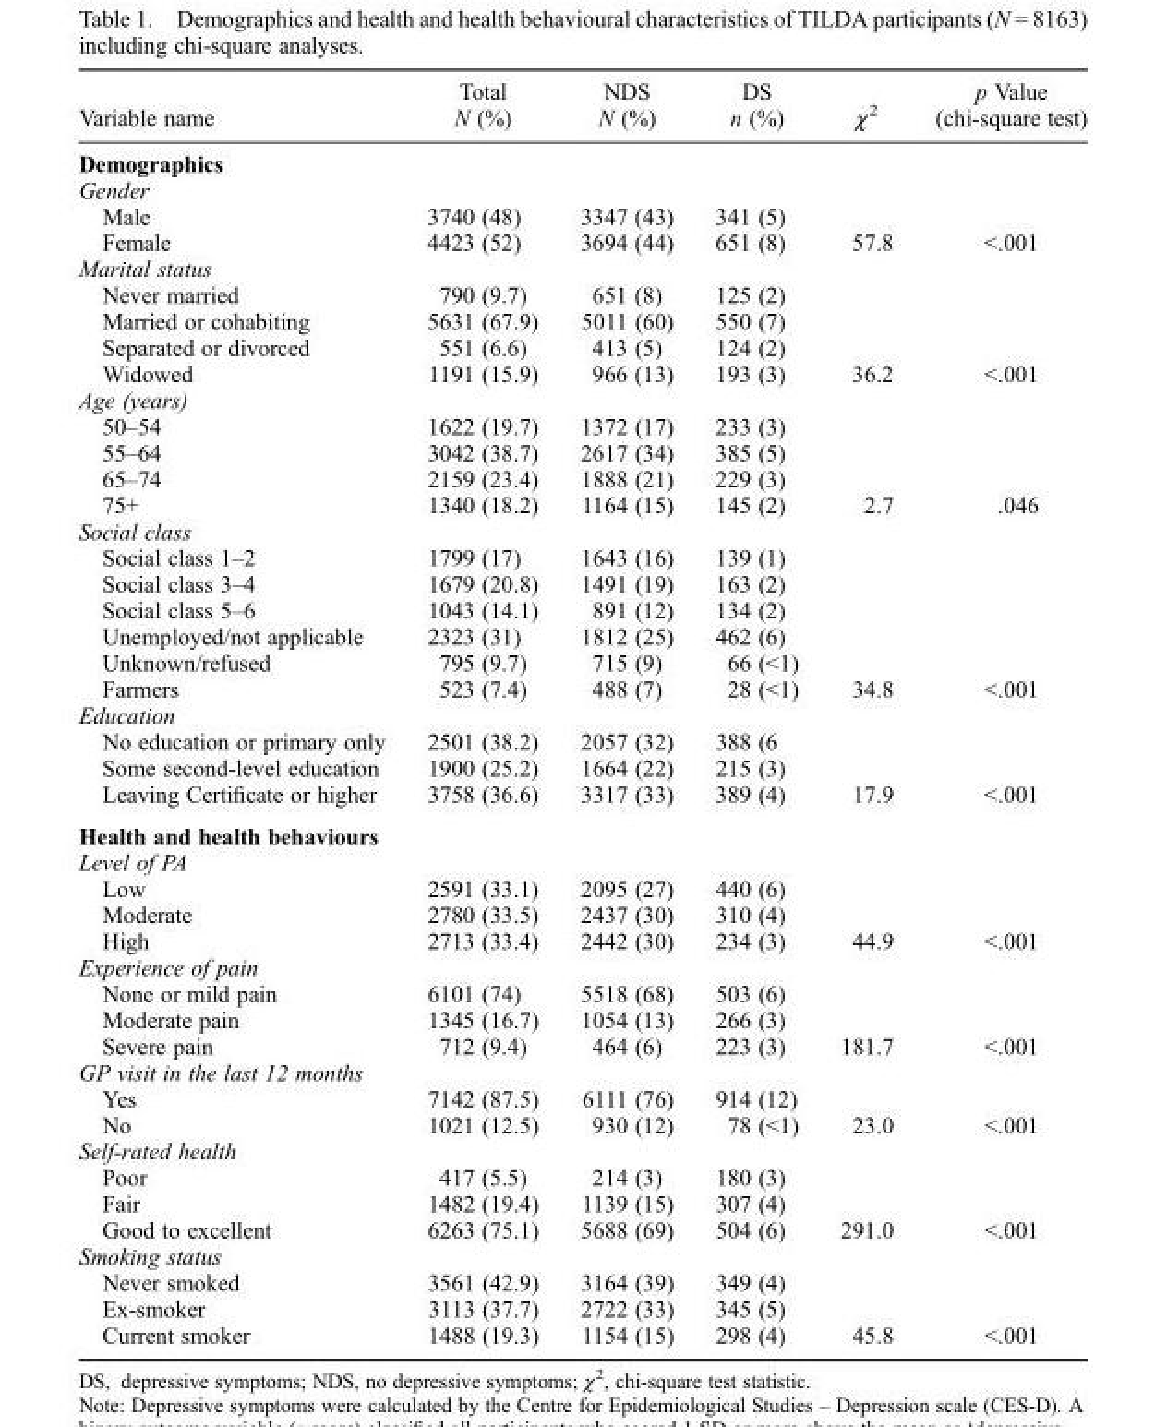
<table><thead><tr><td rowspan="2">Variable name</td><td rowspan="2">Total N (%)</td><td rowspan="2">NDS N (%)</td><td rowspan="2">DS n (%)</td><td rowspan="2">χ<sup>2</sup></td><td rowspan="2">p Value (chi-square test)</td></tr><tr></tr></thead><tbody><tr><td colspan="6">Demographics</td></tr><tr><td colspan="6">Gender</td></tr><tr><td>Male</td><td>3740 (48)</td><td>3347 (43)</td><td>341 (5)</td><td></td><td></td></tr><tr><td>Female</td><td>4423 (52)</td><td>3694 (44)</td><td>651 (8)</td><td>57.8</td><td>&lt;.001</td></tr><tr><td colspan="6">Marital status</td></tr><tr><td>Never married</td><td>790 (9.7)</td><td>651 (8)</td><td>125 (2)</td><td></td><td></td></tr><tr><td>Married or cohabiting</td><td>5631 (67.9)</td><td>5011 (60)</td><td>550 (7)</td><td></td><td></td></tr><tr><td>Separated or divorced</td><td>551 (6.6)</td><td>413 (5)</td><td>124 (2)</td><td></td><td></td></tr><tr><td>Widowed</td><td>1191 (15.9)</td><td>966 (13)</td><td>193 (3)</td><td>36.2</td><td>&lt;.001</td></tr><tr><td colspan="6">Age (years)</td></tr><tr><td>50–54</td><td>1622 (19.7)</td><td>1372 (17)</td><td>233 (3)</td><td></td><td></td></tr><tr><td>55–64</td><td>3042 (38.7)</td><td>2617 (34)</td><td>385 (5)</td><td></td><td></td></tr><tr><td>65–74</td><td>2159 (23.4)</td><td>1888 (21)</td><td>229 (3)</td><td></td><td></td></tr><tr><td>75+</td><td>1340 (18.2)</td><td>1164 (15)</td><td>145 (2)</td><td>2.7</td><td>.046</td></tr><tr><td colspan="6">Social class</td></tr><tr><td>Social class 1–2</td><td>1799 (17)</td><td>1643 (16)</td><td>139 (1)</td><td></td><td></td></tr><tr><td>Social class 3–4</td><td>1679 (20.8)</td><td>1491 (19)</td><td>163 (2)</td><td></td><td></td></tr><tr><td>Social class 5–6</td><td>1043 (14.1)</td><td>891 (12)</td><td>134 (2)</td><td></td><td></td></tr><tr><td>Unemployed/not applicable</td><td>2323 (31)</td><td>1812 (25)</td><td>462 (6)</td><td></td><td></td></tr><tr><td>Unknown/refused</td><td>795 (9.7)</td><td>715 (9)</td><td>66 (&lt;1)</td><td></td><td></td></tr><tr><td>Farmers</td><td>523 (7.4)</td><td>488 (7)</td><td>28 (&lt;1)</td><td>34.8</td><td>&lt;.001</td></tr><tr><td colspan="6">Education</td></tr><tr><td>No education or primary only</td><td>2501 (38.2)</td><td>2057 (32)</td><td>388 (6</td><td></td><td></td></tr><tr><td>Some second-level education</td><td>1900 (25.2)</td><td>1664 (22)</td><td>215 (3)</td><td></td><td></td></tr><tr><td>Leaving Certificate or higher</td><td>3758 (36.6)</td><td>3317 (33)</td><td>389 (4)</td><td>17.9</td><td>&lt;.001</td></tr><tr><td colspan="6">Health and health behaviours</td></tr><tr><td colspan="6">Level of PA</td></tr><tr><td>Low</td><td>2591 (33.1)</td><td>2095 (27)</td><td>440 (6)</td><td></td><td></td></tr><tr><td>Moderate</td><td>2780 (33.5)</td><td>2437 (30)</td><td>310 (4)</td><td></td><td></td></tr><tr><td>High</td><td>2713 (33.4)</td><td>2442 (30)</td><td>234 (3)</td><td>44.9</td><td>&lt;.001</td></tr><tr><td colspan="6">Experience of pain</td></tr><tr><td>None or mild pain</td><td>6101 (74)</td><td>5518 (68)</td><td>503 (6)</td><td></td><td></td></tr><tr><td>Moderate pain</td><td>1345 (16.7)</td><td>1054 (13)</td><td>266 (3)</td><td></td><td></td></tr><tr><td>Severe pain</td><td>712 (9.4)</td><td>464 (6)</td><td>223 (3)</td><td>181.7</td><td>&lt;.001</td></tr><tr><td colspan="6">GP visit in the last 12 months</td></tr><tr><td>Yes</td><td>7142 (87.5)</td><td>6111 (76)</td><td>914 (12)</td><td></td><td></td></tr><tr><td>No</td><td>1021 (12.5)</td><td>930 (12)</td><td>78 (&lt;1)</td><td>23.0</td><td>&lt;.001</td></tr><tr><td colspan="6">Self-rated health</td></tr><tr><td>Poor</td><td>417 (5.5)</td><td>214 (3)</td><td>180 (3)</td><td></td><td></td></tr><tr><td>Fair</td><td>1482 (19.4)</td><td>1139 (15)</td><td>307 (4)</td><td></td><td></td></tr><tr><td>Good to excellent</td><td>6263 (75.1)</td><td>5688 (69)</td><td>504 (6)</td><td>291.0</td><td>&lt;.001</td></tr><tr><td colspan="6">Smoking status</td></tr><tr><td>Never smoked</td><td>3561 (42.9)</td><td>3164 (39)</td><td>349 (4)</td><td></td><td></td></tr><tr><td>Ex-smoker</td><td>3113 (37.7)</td><td>2722 (33)</td><td>345 (5)</td><td></td><td></td></tr><tr><td>Current smoker</td><td>1488 (19.3)</td><td>1154 (15)</td><td>298 (4)</td><td>45.8</td><td>&lt;.001</td></tr></tbody></table>